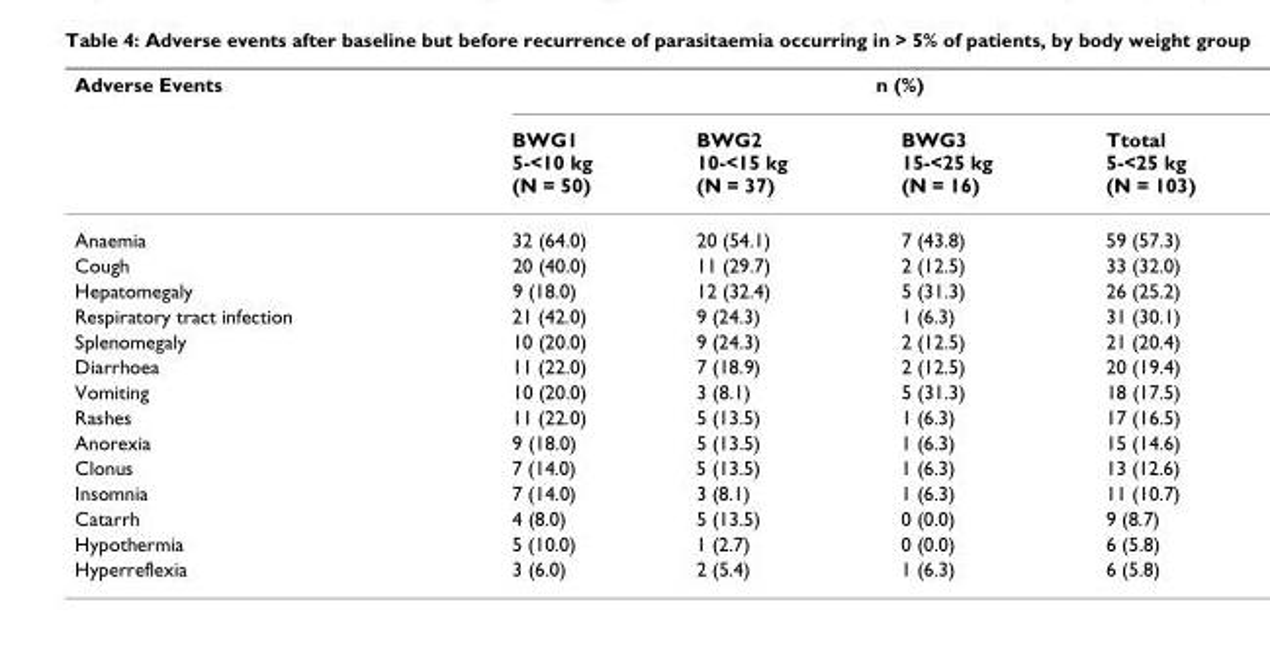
<table><thead><tr><td rowspan="2">Adverse Events</td><td colspan="4">n (%)</td></tr><tr><td>BWG1 5-&lt;10 kg (N = 50)</td><td>BWG2 10-&lt;15 kg (N = 37)</td><td>BWG3 15-&lt;25 kg (N = 16)</td><td>Ttotal 5-&lt;25 kg (N = 103)</td></tr></thead><tbody><tr><td>Anaemia</td><td>32 (64.0)</td><td>20 (54.1)</td><td>7 (43.8)</td><td>59 (57.3)</td></tr><tr><td>Cough</td><td>20 (40.0)</td><td>11 (29.7)</td><td>2 (12.5)</td><td>33 (32.0)</td></tr><tr><td>Hepatomegaly</td><td>9 (18.0)</td><td>12 (32.4)</td><td>5 (31.3)</td><td>26 (25.2)</td></tr><tr><td>Respiratory tract infection</td><td>21 (42.0)</td><td>9 (24.3)</td><td>1 (6.3)</td><td>31 (30.1)</td></tr><tr><td>Splenomegaly</td><td>10 (20.0)</td><td>9 (24.3)</td><td>2 (12.5)</td><td>21 (20.4)</td></tr><tr><td>Diarrhoea</td><td>11 (22.0)</td><td>7 (18.9)</td><td>2 (12.5)</td><td>20 (19.4)</td></tr><tr><td>Vomiting</td><td>10 (20.0)</td><td>3 (8.1)</td><td>5 (31.3)</td><td>18 (17.5)</td></tr><tr><td>Rashes</td><td>11 (22.0)</td><td>5 (13.5)</td><td>1 (6.3)</td><td>17 (16.5)</td></tr><tr><td>Anorexia</td><td>9 (18.0)</td><td>5 (13.5)</td><td>1 (6.3)</td><td>15 (14.6)</td></tr><tr><td>Clonus</td><td>7 (14.0)</td><td>5 (13.5)</td><td>1 (6.3)</td><td>13 (12.6)</td></tr><tr><td>Insomnia</td><td>7 (14.0)</td><td>3 (8.1)</td><td>1 (6.3)</td><td>11 (10.7)</td></tr><tr><td>Catarrh</td><td>4 (8.0)</td><td>5 (13.5)</td><td>0 (0.0)</td><td>9 (8.7)</td></tr><tr><td>Hypothermia</td><td>5 (10.0)</td><td>1 (2.7)</td><td>0 (0.0)</td><td>6 (5.8)</td></tr><tr><td>Hyperreflexia</td><td>3 (6.0)</td><td>2 (5.4)</td><td>1 (6.3)</td><td>6 (5.8)</td></tr></tbody></table>